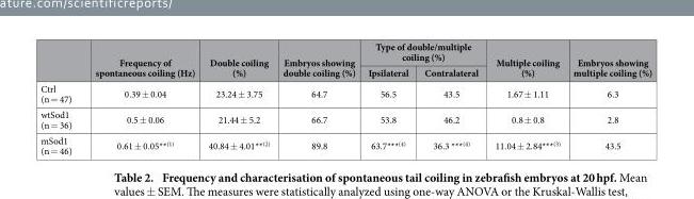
<table><thead><tr><td rowspan="2"></td><td rowspan="2">Frequency of spontaneous coiling (Hz)</td><td rowspan="2">Double coiling (%)</td><td rowspan="2">Embryos showing double coiling (%)</td><td colspan="2">Type of double/multiple coiling (%)</td><td rowspan="2">Multiple coiling (%)</td><td rowspan="2">Embryos showing multiple coiling (%)</td></tr><tr><td>Ipsilateral</td><td>Contralateral</td></tr></thead><tbody><tr><td>Ctrl (n = 47)</td><td>0.39 ± 0.04</td><td>23.24 ± 3.75</td><td>64.7</td><td>56.5</td><td>43.5</td><td>1.67 ± 1.11</td><td>6.3</td></tr><tr><td>wtSod1 (n = 36)</td><td>0.5 ± 0.06</td><td>21.44 ± 5.2</td><td>66.7</td><td>53.8</td><td>46.2</td><td>0.8 ± 0.8</td><td>2.8</td></tr><tr><td>mSod1 (n = 46)</td><td>0.61 ± 0.05**<sup>(1)</sup></td><td>40.84 ± 4.01**<sup>(2)</sup></td><td>89.8</td><td>63.7***<sup>(4)</sup></td><td>36.3 ***<sup>(4)</sup></td><td>11.04 ± 2.84***<sup>(3)</sup></td><td>43.5</td></tr></tbody></table>